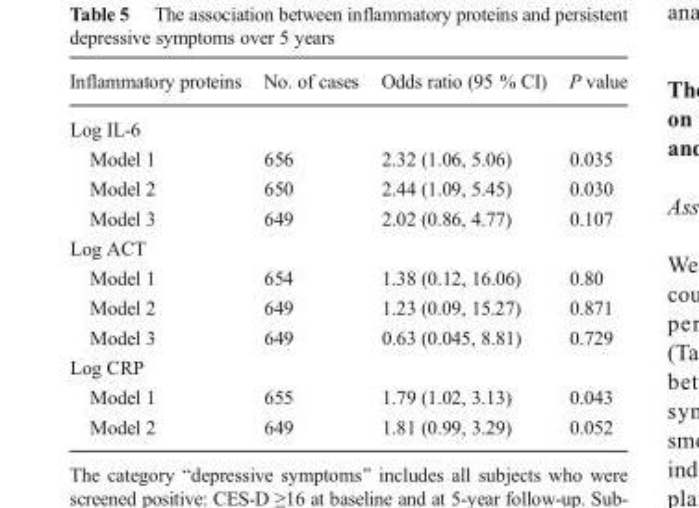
<table><thead><tr><td>Inflammatory proteins</td><td>No. of cases</td><td>Odds ratio (95 % CI)</td><td>P value</td></tr></thead><tbody><tr><td colspan="4">Log IL-6</td></tr><tr><td>Model 1</td><td>656</td><td>2.32 (1.06, 5.06)</td><td>0.035</td></tr><tr><td>Model 2</td><td>650</td><td>2.44 (1.09, 5.45)</td><td>0.030</td></tr><tr><td>Model 3</td><td>649</td><td>2.02 (0.86, 4.77)</td><td>0.107</td></tr><tr><td colspan="4">Log ACT</td></tr><tr><td>Model 1</td><td>654</td><td>1.38 (0.12, 16.06)</td><td>0.80</td></tr><tr><td>Model 2</td><td>649</td><td>1.23 (0.09, 15.27)</td><td>0.871</td></tr><tr><td>Model 3</td><td>649</td><td>0.63 (0.045, 8.81)</td><td>0.729</td></tr><tr><td colspan="4">Log CRP</td></tr><tr><td>Model 1</td><td>655</td><td>1.79 (1.02, 3.13)</td><td>0.043</td></tr><tr><td>Model 2</td><td>649</td><td>1.81 (0.99, 3.29)</td><td>0.052</td></tr></tbody></table>